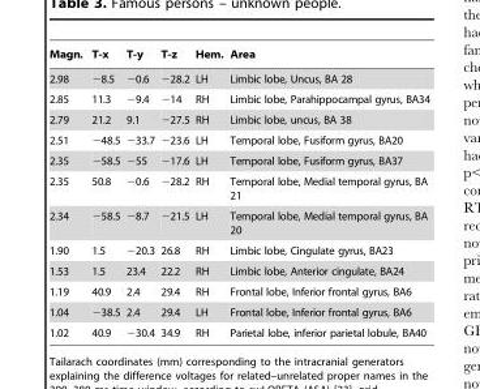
<table><thead><tr><td>Magn.</td><td>T-x</td><td>T-y</td><td>T-z</td><td>Hem.</td><td>Area</td></tr></thead><tbody><tr><td>2.98</td><td>−8.5</td><td>−0.6</td><td>−28.2</td><td>LH</td><td>Limbic lobe, Uncus, BA 28</td></tr><tr><td>2.85</td><td>11.3</td><td>−9.4</td><td>−14</td><td>RH</td><td>Limbic lobe, Parahippocampal gyrus, BA34</td></tr><tr><td>2.79</td><td>21.2</td><td>9.1</td><td>−27.5</td><td>RH</td><td>Limbic lobe, uncus, BA 38</td></tr><tr><td>2.51</td><td>−48.5</td><td>−33.7</td><td>−23.6</td><td>LH</td><td>Temporal lobe, Fusiform gyrus, BA20</td></tr><tr><td>2.35</td><td>−58.5</td><td>−55</td><td>−17.6</td><td>LH</td><td>Temporal lobe, Fusiform gyrus, BA37</td></tr><tr><td>2.35</td><td>50.8</td><td>−0.6</td><td>−28.2</td><td>RH</td><td>Temporal lobe, Medial temporal gyrus, BA 21</td></tr><tr><td>2.34</td><td>−58.5</td><td>−8.7</td><td>−21.5</td><td>LH</td><td>Temporal lobe, Medial temporal gyrus, BA 20</td></tr><tr><td>1.90</td><td>1.5</td><td>−20.3</td><td>26.8</td><td>RH</td><td>Limbic lobe, Cingulate gyrus, BA23</td></tr><tr><td>1.53</td><td>1.5</td><td>23.4</td><td>22.2</td><td>RH</td><td>Limbic lobe, Anterior cingulate, BA24</td></tr><tr><td>1.19</td><td>40.9</td><td>2.4</td><td>29.4</td><td>RH</td><td>Frontal lobe, Inferior frontal gyrus, BA6</td></tr><tr><td>1.04</td><td>−38.5</td><td>2.4</td><td>29.4</td><td>LH</td><td>Frontal lobe, Inferior frontal gyrus, BA6</td></tr><tr><td>1.02</td><td>40.9</td><td>−30.4</td><td>34.9</td><td>RH</td><td>Parietal lobe, inferior parietal lobule, BA40</td></tr></tbody></table>